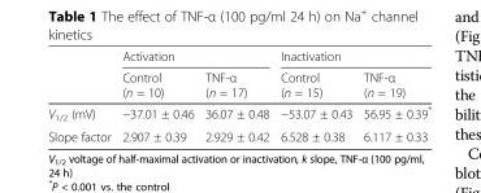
<table><thead><tr><td rowspan="2"></td><td colspan="2">Activation</td><td colspan="2">Inactivation</td></tr><tr><td>Control (n = 10)</td><td>TNF-α (n = 17)</td><td>Control (n = 15)</td><td>TNF-α (n = 19)</td></tr></thead><tbody><tr><td>V<sub>1/2</sub> (mV)</td><td>−37.01 ± 0.46</td><td>36.07 ± 0.48</td><td>−53.07 ± 0.43</td><td>56.95 ± 0.39*</td></tr><tr><td>Slope factor</td><td>2.907 ± 0.39</td><td>2.929 ± 0.42</td><td>6.528 ± 0.38</td><td>6.117 ± 0.33</td></tr></tbody></table>